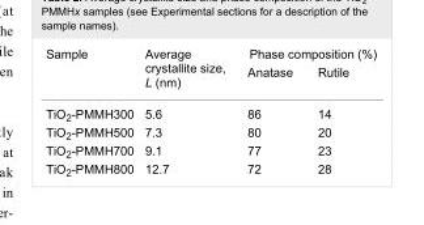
<table><tbody><tr><td rowspan="2">Sample</td><td rowspan="2">Average crystallite size, L (nm)</td><td colspan="2">Phase composition (%)</td></tr><tr><td>Anatase</td><td>Rutile</td></tr><tr><td>TiO<sub>2</sub>-PMMН300</td><td>5.6</td><td>86</td><td>14</td></tr><tr><td>TiO<sub>2</sub>-PMMН500</td><td>7.3</td><td>80</td><td>20</td></tr><tr><td>TiO<sub>2</sub>-PMMН700</td><td>9.1</td><td>77</td><td>23</td></tr><tr><td>TiO<sub>2</sub>-PMMН800</td><td>12.7</td><td>72</td><td>28</td></tr></tbody></table>